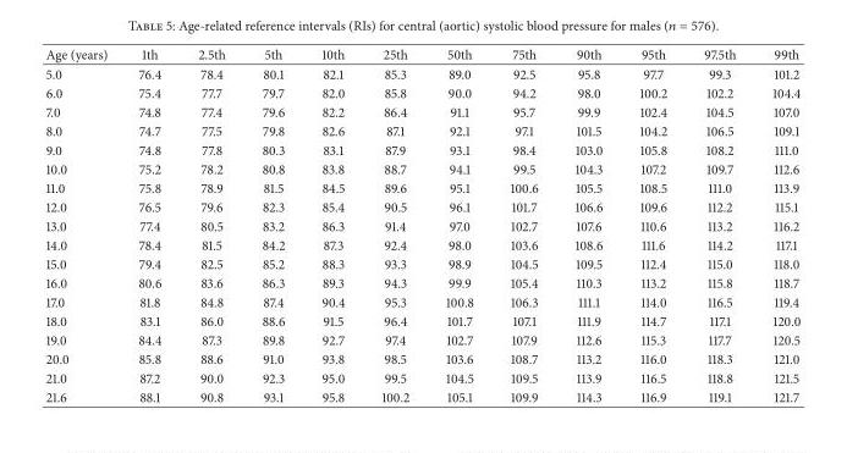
<table><thead><tr><td>Age (years)</td><td>1th</td><td>2.5th</td><td>5th</td><td>10th</td><td>25th</td><td>50th</td><td>75th</td><td>90th</td><td>95th</td><td>97.5th</td><td>99th</td></tr></thead><tbody><tr><td>5.0</td><td>76.4</td><td>78.4</td><td>80.1</td><td>82.1</td><td>85.3</td><td>89.0</td><td>92.5</td><td>95.8</td><td>97.7</td><td>99.3</td><td>101.2</td></tr><tr><td>6.0</td><td>75.4</td><td>77.7</td><td>79.7</td><td>82.0</td><td>85.8</td><td>90.0</td><td>94.2</td><td>98.0</td><td>100.2</td><td>102.2</td><td>104.4</td></tr><tr><td>7.0</td><td>74.8</td><td>77.4</td><td>79.6</td><td>82.2</td><td>86.4</td><td>91.1</td><td>95.7</td><td>99.9</td><td>102.4</td><td>104.5</td><td>107.0</td></tr><tr><td>8.0</td><td>74.7</td><td>77.5</td><td>79.8</td><td>82.6</td><td>87.1</td><td>92.1</td><td>97.1</td><td>101.5</td><td>104.2</td><td>106.5</td><td>109.1</td></tr><tr><td>9.0</td><td>74.8</td><td>77.8</td><td>80.3</td><td>83.1</td><td>87.9</td><td>93.1</td><td>98.4</td><td>103.0</td><td>105.8</td><td>108.2</td><td>111.0</td></tr><tr><td>10.0</td><td>75.2</td><td>78.2</td><td>80.8</td><td>83.8</td><td>88.7</td><td>94.1</td><td>99.5</td><td>104.3</td><td>107.2</td><td>109.7</td><td>112.6</td></tr><tr><td>11.0</td><td>75.8</td><td>78.9</td><td>81.5</td><td>84.5</td><td>89.6</td><td>95.1</td><td>100.6</td><td>105.5</td><td>108.5</td><td>111.0</td><td>113.9</td></tr><tr><td>12.0</td><td>76.5</td><td>79.6</td><td>82.3</td><td>85.4</td><td>90.5</td><td>96.1</td><td>101.7</td><td>106.6</td><td>109.6</td><td>112.2</td><td>115.1</td></tr><tr><td>13.0</td><td>77.4</td><td>80.5</td><td>83.2</td><td>86.3</td><td>91.4</td><td>97.0</td><td>102.7</td><td>107.6</td><td>110.6</td><td>113.2</td><td>116.2</td></tr><tr><td>14.0</td><td>78.4</td><td>81.5</td><td>84.2</td><td>87.3</td><td>92.4</td><td>98.0</td><td>103.6</td><td>108.6</td><td>111.6</td><td>114.2</td><td>117.1</td></tr><tr><td>15.0</td><td>79.4</td><td>82.5</td><td>85.2</td><td>88.3</td><td>93.3</td><td>98.9</td><td>104.5</td><td>109.5</td><td>112.4</td><td>115.0</td><td>118.0</td></tr><tr><td>16.0</td><td>80.6</td><td>83.6</td><td>86.3</td><td>89.3</td><td>94.3</td><td>99.9</td><td>105.4</td><td>110.3</td><td>113.2</td><td>115.8</td><td>118.7</td></tr><tr><td>17.0</td><td>81.8</td><td>84.8</td><td>87.4</td><td>90.4</td><td>95.3</td><td>100.8</td><td>106.3</td><td>111.1</td><td>114.0</td><td>116.5</td><td>119.4</td></tr><tr><td>18.0</td><td>83.1</td><td>86.0</td><td>88.6</td><td>91.5</td><td>96.4</td><td>101.7</td><td>107.1</td><td>111.9</td><td>114.7</td><td>117.1</td><td>120.0</td></tr><tr><td>19.0</td><td>84.4</td><td>87.3</td><td>89.8</td><td>92.7</td><td>97.4</td><td>102.7</td><td>107.9</td><td>112.6</td><td>115.3</td><td>117.7</td><td>120.5</td></tr><tr><td>20.0</td><td>85.8</td><td>88.6</td><td>91.0</td><td>93.8</td><td>98.5</td><td>103.6</td><td>108.7</td><td>113.2</td><td>116.0</td><td>118.3</td><td>121.0</td></tr><tr><td>21.0</td><td>87.2</td><td>90.0</td><td>92.3</td><td>95.0</td><td>99.5</td><td>104.5</td><td>109.5</td><td>113.9</td><td>116.5</td><td>118.8</td><td>121.5</td></tr><tr><td>21.6</td><td>88.1</td><td>90.8</td><td>93.1</td><td>95.8</td><td>100.2</td><td>105.1</td><td>109.9</td><td>114.3</td><td>116.9</td><td>119.1</td><td>121.7</td></tr></tbody></table>